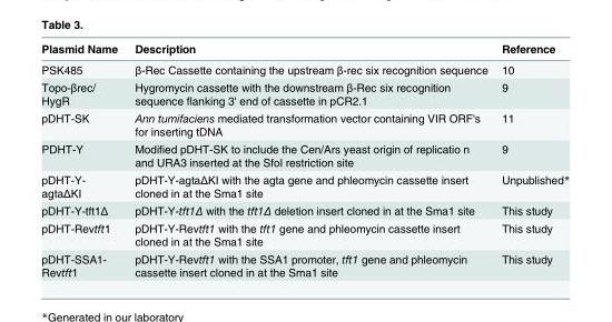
<table><thead><tr><td>Plasmid Name</td><td>Description</td><td>Reference</td></tr></thead><tbody><tr><td>PSK485</td><td>β-Rec Cassette containing the upstream β-rec six recognition sequence</td><td>10</td></tr><tr><td>Topo-βrec/ HygR</td><td>Hygromycin cassette with the downstream β-Rec six recognition sequence flanking 3&#x27; end of cassette in pCR2.1</td><td>9</td></tr><tr><td>pDHT-SK</td><td>Ann tumifaciens mediated transformation vector containing VIR ORF&#x27;s for inserting tDNA</td><td>11</td></tr><tr><td>PDHT-Y</td><td>Modified pDHT-SK to include the Cen/Ars yeast origin of replicatio n and URA3 inserted at the Sfol restriction site</td><td>9</td></tr><tr><td>pDHT-Y- agtaΔKI</td><td>pDHT-Y-agtaΔKI with the agta gene and phleomycin cassette insert cloned in at the Sma1 site</td><td>Unpublished*</td></tr><tr><td>pDHT-Y-tft1Δ</td><td>pDHT-Y-tft1Δ with the tft1Δ deletion insert cloned in at the Sma1 site</td><td>This study</td></tr><tr><td>pDHT-Revtft1</td><td>pDHT-Y-Revtft1 with the tft1 gene and phleomycin cassette insert cloned in at the Sma1 site</td><td>This study</td></tr><tr><td>pDHT-SSA1- Revtft1</td><td>pDHT-Y-Revtft1 with the SSA1 promoter, tft1 gene and phleomycin cassette insert cloned in at the Sma1 site</td><td>This study</td></tr></tbody></table>